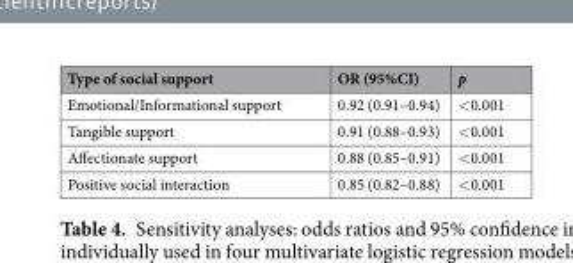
<table><thead><tr><td>Type of social support</td><td>OR (95%CI)</td><td>p</td></tr></thead><tbody><tr><td>Emotional/Informational support</td><td>0.92 (0.91–0.94)</td><td>&lt;0.001</td></tr><tr><td>Tangible support</td><td>0.91 (0.88–0.93)</td><td>&lt;0.001</td></tr><tr><td>Affectionate support</td><td>0.88 (0.85–0.91)</td><td>&lt;0.001</td></tr><tr><td>Positive social interaction</td><td>0.85 (0.82–0.88)</td><td>&lt;0.001</td></tr></tbody></table>